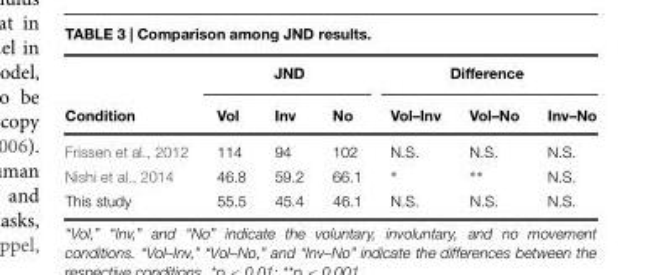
<table><thead><tr><td rowspan="2">Condition</td><td colspan="3">JND</td><td colspan="3">Difference</td></tr><tr><td>Vol</td><td>Inv</td><td>No</td><td>Vol–Inv</td><td>Vol–No</td><td>Inv–No</td></tr></thead><tbody><tr><td>Frissen et al., 2012</td><td>114</td><td>94</td><td>102</td><td>N.S.</td><td>N.S.</td><td>N.S.</td></tr><tr><td>Nishi et al., 2014</td><td>46.8</td><td>59.2</td><td>66.1</td><td>∗</td><td>∗∗</td><td>N.S.</td></tr><tr><td>This study</td><td>55.5</td><td>45.4</td><td>46.1</td><td>N.S.</td><td>N.S.</td><td>N.S.</td></tr></tbody></table>